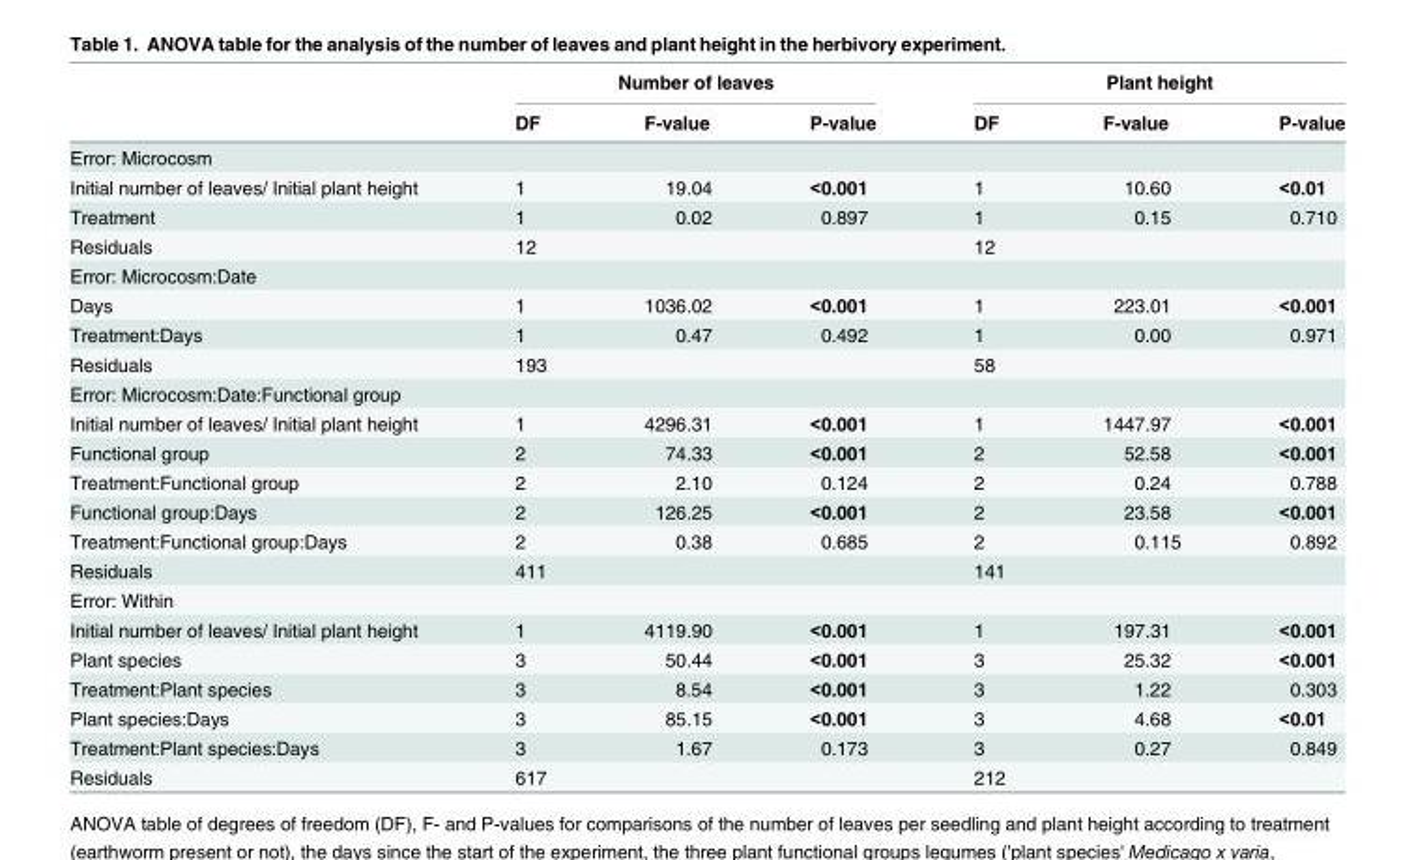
<table><thead><tr><td rowspan="2"></td><td colspan="3">Number of leaves</td><td colspan="3">Plant height</td></tr><tr><td>DF</td><td>F-value</td><td>P-value</td><td>DF</td><td>F-value</td><td>P-value</td></tr></thead><tbody><tr><td colspan="7">Error: Microcosm</td></tr><tr><td>Initial number of leaves/ Initial plant height</td><td>1</td><td>19.04</td><td>&lt;0.001</td><td>1</td><td>10.60</td><td>&lt;0.01</td></tr><tr><td>Treatment</td><td>1</td><td>0.02</td><td>0.897</td><td>1</td><td>0.15</td><td>0.710</td></tr><tr><td>Residuals</td><td>12</td><td></td><td></td><td>12</td><td></td><td></td></tr><tr><td colspan="7">Error: Microcosm:Date</td></tr><tr><td>Days</td><td>1</td><td>1036.02</td><td>&lt;0.001</td><td>1</td><td>223.01</td><td>&lt;0.001</td></tr><tr><td>Treatment:Days</td><td>1</td><td>0.47</td><td>0.492</td><td>1</td><td>0.00</td><td>0.971</td></tr><tr><td>Residuals</td><td>193</td><td></td><td></td><td>58</td><td></td><td></td></tr><tr><td colspan="7">Error: Microcosm:Date:Functional group</td></tr><tr><td>Initial number of leaves/ Initial plant height</td><td>1</td><td>4296.31</td><td>&lt;0.001</td><td>1</td><td>1447.97</td><td>&lt;0.001</td></tr><tr><td>Functional group</td><td>2</td><td>74.33</td><td>&lt;0.001</td><td>2</td><td>52.58</td><td>&lt;0.001</td></tr><tr><td>Treatment:Functional group</td><td>2</td><td>2.10</td><td>0.124</td><td>2</td><td>0.24</td><td>0.788</td></tr><tr><td>Functional group:Days</td><td>2</td><td>126.25</td><td>&lt;0.001</td><td>2</td><td>23.58</td><td>&lt;0.001</td></tr><tr><td>Treatment:Functional group:Days</td><td>2</td><td>0.38</td><td>0.685</td><td>2</td><td>0.115</td><td>0.892</td></tr><tr><td>Residuals</td><td>411</td><td></td><td></td><td>141</td><td></td><td></td></tr><tr><td colspan="7">Error: Within</td></tr><tr><td>Initial number of leaves/ Initial plant height</td><td>1</td><td>4119.90</td><td>&lt;0.001</td><td>1</td><td>197.31</td><td>&lt;0.001</td></tr><tr><td>Plant species</td><td>3</td><td>50.44</td><td>&lt;0.001</td><td>3</td><td>25.32</td><td>&lt;0.001</td></tr><tr><td>Treatment:Plant species</td><td>3</td><td>8.54</td><td>&lt;0.001</td><td>3</td><td>1.22</td><td>0.303</td></tr><tr><td>Plant species:Days</td><td>3</td><td>85.15</td><td>&lt;0.001</td><td>3</td><td>4.68</td><td>&lt;0.01</td></tr><tr><td>Treatment:Plant species:Days</td><td>3</td><td>1.67</td><td>0.173</td><td>3</td><td>0.27</td><td>0.849</td></tr><tr><td>Residuals</td><td>617</td><td></td><td></td><td>212</td><td></td><td></td></tr></tbody></table>